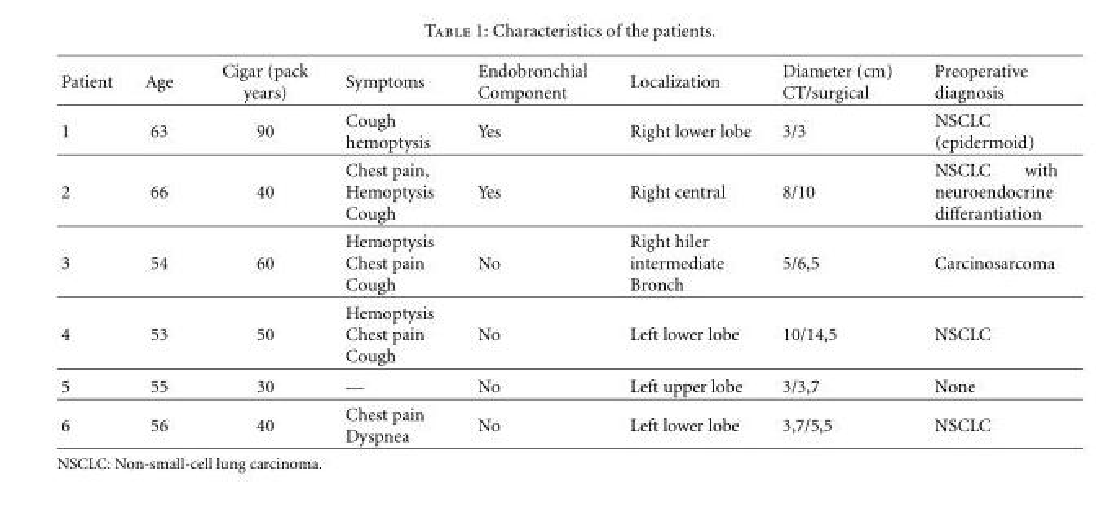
<table><thead><tr><td>Patient</td><td>Age</td><td>Cigar (pack years)</td><td>Symptoms</td><td>Endobronchial Component</td><td>Localization</td><td>Diameter (cm) CT/surgical</td><td>Preoperative diagnosis</td></tr></thead><tbody><tr><td>1</td><td>63</td><td>90</td><td>Cough hemoptysis</td><td>Yes</td><td>Right lower lobe</td><td>3/3</td><td>NSCLC (epidermoid)</td></tr><tr><td>2</td><td>66</td><td>40</td><td>Chest pain, Hemoptysis Cough</td><td>Yes</td><td>Right central</td><td>8/10</td><td>NSCLC with neuroendocrine differantiation</td></tr><tr><td>3</td><td>54</td><td>60</td><td>Hemoptysis Chest pain Cough</td><td>No</td><td>Right hiler intermediate Bronch</td><td>5/6,5</td><td>Carcinosarcoma</td></tr><tr><td>4</td><td>53</td><td>50</td><td>Hemoptysis Chest pain Cough</td><td>No</td><td>Left lower lobe</td><td>10/14,5</td><td>NSCLC</td></tr><tr><td>5</td><td>55</td><td>30</td><td>—</td><td>No</td><td>Left upper lobe</td><td>3/3,7</td><td>None</td></tr><tr><td>6</td><td>56</td><td>40</td><td>Chest pain Dyspnea</td><td>No</td><td>Left lower lobe</td><td>3,7/5,5</td><td>NSCLC</td></tr></tbody></table>